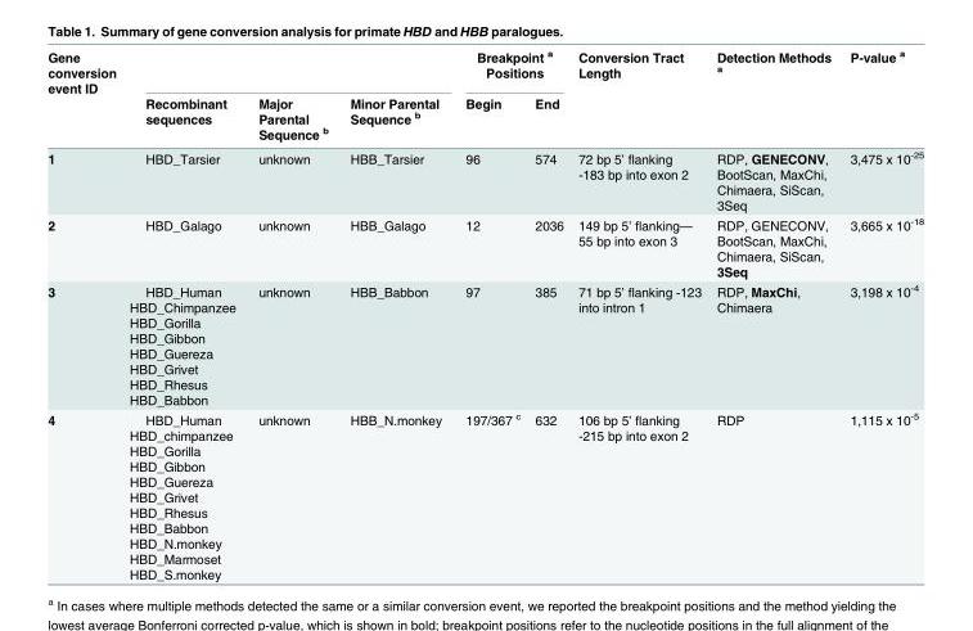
<table><thead><tr><td rowspan="2">Gene conversion event ID</td><td rowspan="2">Recombinant sequences</td><td rowspan="2">Major Parental Sequence <sup>b</sup></td><td rowspan="2">Minor Parental Sequence <sup>b</sup></td><td colspan="2">Breakpoint <sup>a</sup> Positions</td><td rowspan="2">Conversion Tract Length</td><td rowspan="2">Detection Methods <sup>a</sup></td><td rowspan="2">P-value <sup>a</sup></td></tr><tr><td>Begin</td><td>End</td></tr></thead><tbody><tr><td>1</td><td>HBD_Tarsier</td><td>unknown</td><td>HBB_Tarsier</td><td>96</td><td>574</td><td>72 bp 5’ flanking -183 bp into exon 2</td><td>RDP, GENECONV, BootScan, MaxChi, Chimaera, SiScan, 3Seq</td><td>3,475 x 10<sup>-25</sup></td></tr><tr><td>2</td><td>HBD_Galago</td><td>unknown</td><td>HBB_Galago</td><td>12</td><td>2036</td><td>149 bp 5’ flanking— 55 bp into exon 3</td><td>RDP, GENECONV, BootScan, MaxChi, Chimaera, SiScan, 3Seq</td><td>3,665 x 10<sup>-18</sup></td></tr><tr><td>3</td><td>HBD_Human HBD_Chimpanzee HBD_Gorilla HBD_Gibbon HBD_Guereza HBD_Grivet HBD_Rhesus HBD_Babbon</td><td>unknown</td><td>HBB_Babbon</td><td>97</td><td>385</td><td>71 bp 5’ flanking -123 into intron 1</td><td>RDP, MaxChi, Chimaera</td><td>3,198 x 10<sup>-4</sup></td></tr><tr><td>4</td><td>HBD_Human HBD_chimpanzee HBD_Gorilla HBD_Gibbon HBD_Guereza HBD_Grivet HBD_Rhesus HBD_Babbon HBD_N.monkey HBD_Marmoset HBD_S.monkey</td><td>unknown</td><td>HBB_N.monkey</td><td>197/367 <sup>c</sup></td><td>632</td><td>106 bp 5’ flanking -215 bp into exon 2</td><td>RDP</td><td>1,115 x 10<sup>-5</sup></td></tr></tbody></table>